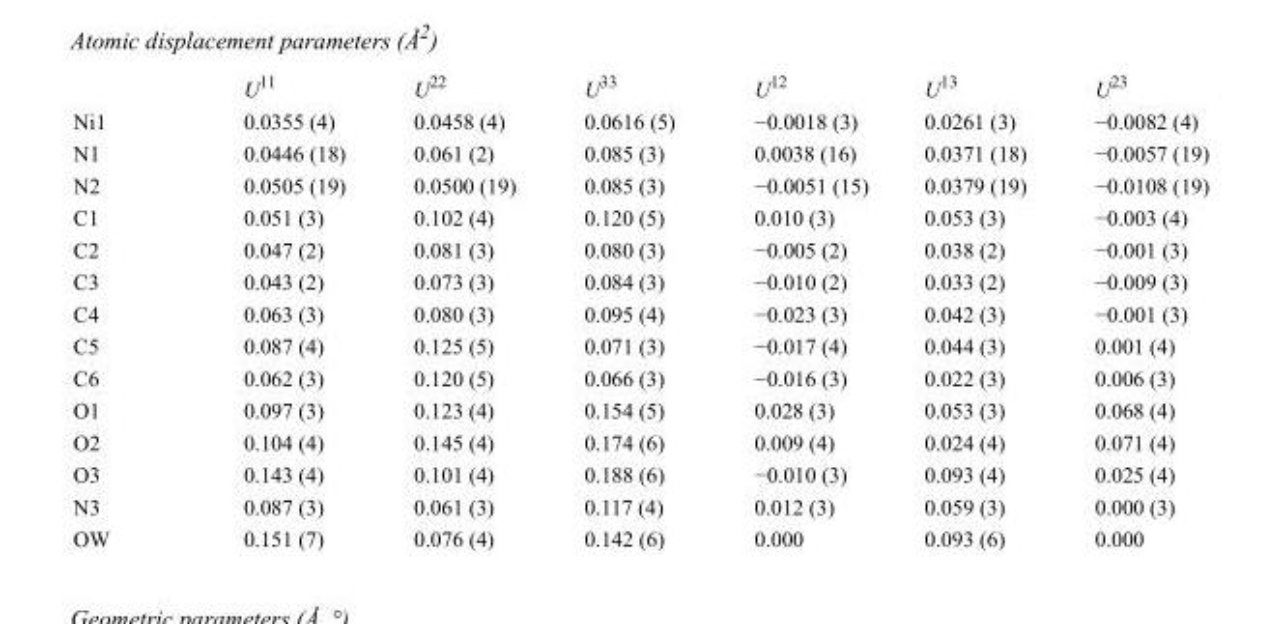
<table><thead><tr><td></td><td>U<sup>11</sup></td><td>U<sup>22</sup></td><td>U<sup>33</sup></td><td>U<sup>12</sup></td><td>U<sup>13</sup></td><td>U<sup>23</sup></td></tr></thead><tbody><tr><td>Ni1</td><td>0.0355 (4)</td><td>0.0458 (4)</td><td>0.0616 (5)</td><td>−0.0018 (3)</td><td>0.0261 (3)</td><td>−0.0082 (4)</td></tr><tr><td>N1</td><td>0.0446 (18)</td><td>0.061 (2)</td><td>0.085 (3)</td><td>0.0038 (16)</td><td>0.0371 (18)</td><td>−0.0057 (19)</td></tr><tr><td>N2</td><td>0.0505 (19)</td><td>0.0500 (19)</td><td>0.085 (3)</td><td>−0.0051 (15)</td><td>0.0379 (19)</td><td>−0.0108 (19)</td></tr><tr><td>C1</td><td>0.051 (3)</td><td>0.102 (4)</td><td>0.120 (5)</td><td>0.010 (3)</td><td>0.053 (3)</td><td>−0.003 (4)</td></tr><tr><td>C2</td><td>0.047 (2)</td><td>0.081 (3)</td><td>0.080 (3)</td><td>−0.005 (2)</td><td>0.038 (2)</td><td>−0.001 (3)</td></tr><tr><td>C3</td><td>0.043 (2)</td><td>0.073 (3)</td><td>0.084 (3)</td><td>−0.010 (2)</td><td>0.033 (2)</td><td>−0.009 (3)</td></tr><tr><td>C4</td><td>0.063 (3)</td><td>0.080 (3)</td><td>0.095 (4)</td><td>−0.023 (3)</td><td>0.042 (3)</td><td>−0.001 (3)</td></tr><tr><td>C5</td><td>0.087 (4)</td><td>0.125 (5)</td><td>0.071 (3)</td><td>−0.017 (4)</td><td>0.044 (3)</td><td>0.001 (4)</td></tr><tr><td>C6</td><td>0.062 (3)</td><td>0.120 (5)</td><td>0.066 (3)</td><td>−0.016 (3)</td><td>0.022 (3)</td><td>0.006 (3)</td></tr><tr><td>O1</td><td>0.097 (3)</td><td>0.123 (4)</td><td>0.154 (5)</td><td>0.028 (3)</td><td>0.053 (3)</td><td>0.068 (4)</td></tr><tr><td>O2</td><td>0.104 (4)</td><td>0.145 (4)</td><td>0.174 (6)</td><td>0.009 (4)</td><td>0.024 (4)</td><td>0.071 (4)</td></tr><tr><td>O3</td><td>0.143 (4)</td><td>0.101 (4)</td><td>0.188 (6)</td><td>−0.010 (3)</td><td>0.093 (4)</td><td>0.025 (4)</td></tr><tr><td>N3</td><td>0.087 (3)</td><td>0.061 (3)</td><td>0.117 (4)</td><td>0.012 (3)</td><td>0.059 (3)</td><td>0.000 (3)</td></tr><tr><td>OW</td><td>0.151 (7)</td><td>0.076 (4)</td><td>0.142 (6)</td><td>0.000</td><td>0.093 (6)</td><td>0.000</td></tr></tbody></table>